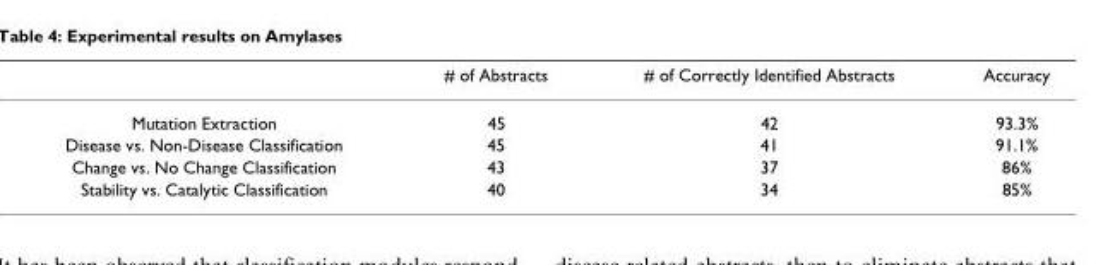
<table><thead><tr><td></td><td># of Abstracts</td><td># of Correctly Identified Abstracts</td><td>Accuracy</td></tr></thead><tbody><tr><td>Mutation Extraction</td><td>45</td><td>42</td><td>93.3%</td></tr><tr><td>Disease vs. Non-Disease Classification</td><td>45</td><td>41</td><td>91.1%</td></tr><tr><td>Change vs. No Change Classification</td><td>43</td><td>37</td><td>86%</td></tr><tr><td>Stability vs. Catalytic Classification</td><td>40</td><td>34</td><td>85%</td></tr></tbody></table>